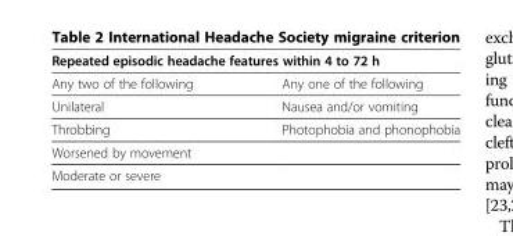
<table><thead><tr><td colspan="2">Repeated episodic headache features within 4 to 72 h</td></tr><tr><td>Any two of the following</td><td>Any one of the following</td></tr></thead><tbody><tr><td>Unilateral</td><td>Nausea and/or vomiting</td></tr><tr><td>Throbbing</td><td>Photophobia and phonophobia</td></tr><tr><td colspan="2">Worsened by movement</td></tr><tr><td>Moderate or severe</td><td></td></tr></tbody></table>